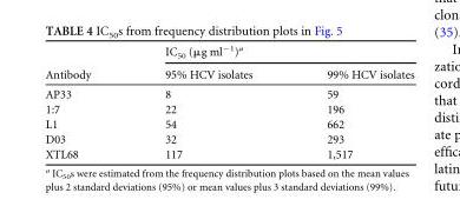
<table><thead><tr><td rowspan="2">Antibody</td><td colspan="2">IC<sub>50</sub> (μg ml<sup>−1</sup>)<sup>a</sup></td></tr><tr><td>95% HCV isolates</td><td>99% HCV isolates</td></tr></thead><tbody><tr><td>AP33</td><td>8</td><td>59</td></tr><tr><td>1:7</td><td>22</td><td>196</td></tr><tr><td>L1</td><td>54</td><td>662</td></tr><tr><td>D03</td><td>32</td><td>293</td></tr><tr><td>XTL68</td><td>117</td><td>1,517</td></tr></tbody></table>